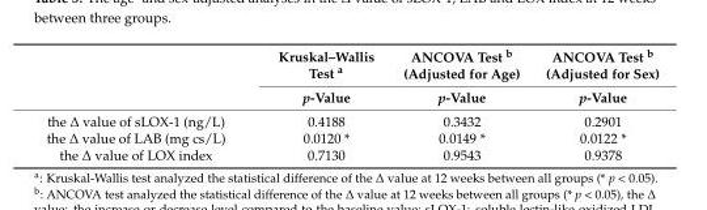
<table><thead><tr><td rowspan="2"></td><td rowspan="2">Kruskal–Wallis Test <sup>a</sup> p-Value</td><td rowspan="2">ANCOVA Test <sup>b</sup> (Adjusted for Age) p-Value</td><td rowspan="2">ANCOVA Test <sup>b</sup> (Adjusted for Sex) p-Value</td></tr><tr></tr></thead><tbody><tr><td>the ∆ value of sLOX-1 (ng/L)</td><td>0.4188</td><td>0.3432</td><td>0.2901</td></tr><tr><td>the ∆ value of LAB (mg cs/L)</td><td>0.0120 *</td><td>0.0149 *</td><td>0.0122 *</td></tr><tr><td>the ∆ value of LOX index</td><td>0.7130</td><td>0.9543</td><td>0.9378</td></tr></tbody></table>